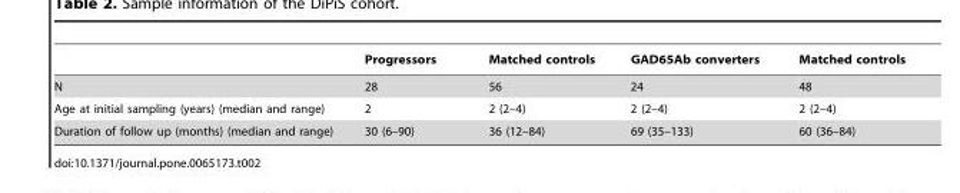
<table><thead><tr><td></td><td>Progressors</td><td>Matched controls</td><td>GAD65Ab converters</td><td>Matched controls</td></tr></thead><tbody><tr><td>N</td><td>28</td><td>56</td><td>24</td><td>48</td></tr><tr><td>Age at initial sampling (years) (median and range)</td><td>2</td><td>2 (2–4)</td><td>2 (2–4)</td><td>2 (2–4)</td></tr><tr><td>Duration of follow up (months) (median and range)</td><td>30 (6–90)</td><td>36 (12–84)</td><td>69 (35–133)</td><td>60 (36–84)</td></tr></tbody></table>